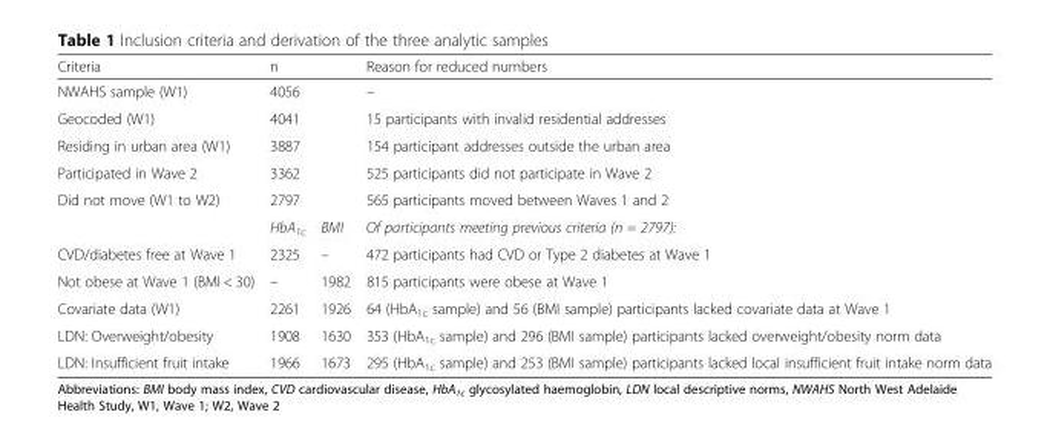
<table><thead><tr><td>Criteria</td><td colspan="2">n</td><td>Reason for reduced numbers</td></tr></thead><tbody><tr><td>NWAHS sample (W1)</td><td colspan="2">4056</td><td>–</td></tr><tr><td>Geocoded (W1)</td><td colspan="2">4041</td><td>15 participants with invalid residential addresses</td></tr><tr><td>Residing in urban area (W1)</td><td colspan="2">3887</td><td>154 participant addresses outside the urban area</td></tr><tr><td>Participated in Wave 2</td><td colspan="2">3362</td><td>525 participants did not participate in Wave 2</td></tr><tr><td rowspan="2">Did not move (W1 to W2)</td><td colspan="2">2797</td><td>565 participants moved between Waves 1 and 2</td></tr><tr><td>HbA<sub>1c</sub></td><td>BMI</td><td>Of participants meeting previous criteria (n = 2797):</td></tr><tr><td>CVD/diabetes free at Wave 1</td><td>2325</td><td>–</td><td>472 participants had CVD or Type 2 diabetes at Wave 1</td></tr><tr><td>Not obese at Wave 1 (BMI &lt; 30)</td><td>–</td><td>1982</td><td>815 participants were obese at Wave 1</td></tr><tr><td>Covariate data (W1)</td><td>2261</td><td>1926</td><td>64 (HbA<sub>1c</sub> sample) and 56 (BMI sample) participants lacked covariate data at Wave 1</td></tr><tr><td>LDN: Overweight/obesity</td><td>1908</td><td>1630</td><td>353 (HbA<sub>1c</sub> sample) and 296 (BMI sample) participants lacked overweight/obesity norm data</td></tr><tr><td>LDN: Insufficient fruit intake</td><td>1966</td><td>1673</td><td>295 (HbA<sub>1c</sub> sample) and 253 (BMI sample) participants lacked local insufficient fruit intake norm data</td></tr></tbody></table>